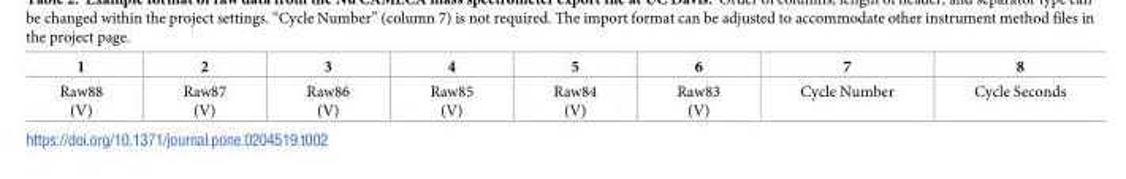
<table><thead><tr><td>1</td><td>2</td><td>3</td><td>4</td><td>5</td><td>6</td><td>7</td><td>8</td></tr></thead><tbody><tr><td>Raw88 (V)</td><td>Raw87 (V)</td><td>Raw86 (V)</td><td>Raw85 (V)</td><td>Raw84 (V)</td><td>Raw83 (V)</td><td>Cycle Number</td><td>Cycle Seconds</td></tr></tbody></table>